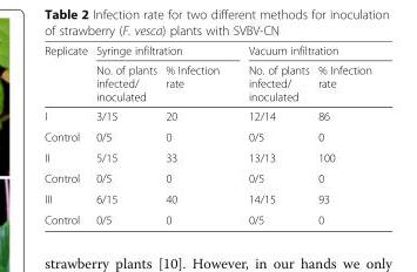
<table><thead><tr><td rowspan="2">Replicate</td><td colspan="2">Syringe infiltration</td><td colspan="2">Vacuum infiltration</td></tr><tr><td>No. of plants infected/ inoculated</td><td>% Infection rate</td><td>No. of plants infected/ inoculated</td><td>% Infection rate</td></tr></thead><tbody><tr><td>I</td><td>3/15</td><td>20</td><td>12/14</td><td>86</td></tr><tr><td>Control</td><td>0/5</td><td>0</td><td>0/5</td><td>0</td></tr><tr><td>II</td><td>5/15</td><td>33</td><td>13/13</td><td>100</td></tr><tr><td>Control</td><td>0/5</td><td>0</td><td>0/5</td><td>0</td></tr><tr><td>III</td><td>6/15</td><td>40</td><td>14/15</td><td>93</td></tr><tr><td>Control</td><td>0/5</td><td>0</td><td>0/5</td><td>0</td></tr></tbody></table>